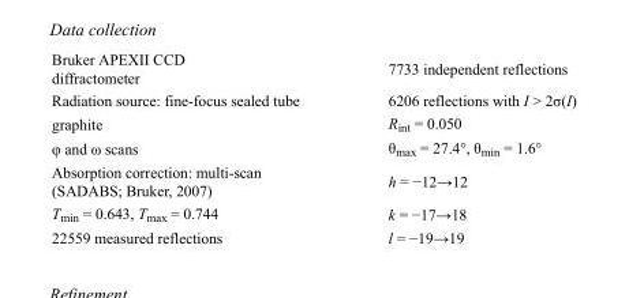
<table><tbody><tr><td>Bruker APEXII CCD diffractometer</td><td>7733 independent reflections</td></tr><tr><td>Radiation source: fine-focus sealed tube</td><td>6206 reflections with I &gt; 2σ(I)</td></tr><tr><td>graphite</td><td>R<sub>int</sub> = 0.050</td></tr><tr><td>φ and ω scans</td><td>θ<sub>max</sub> = 27.4°, θ<sub>min</sub> = 1.6°</td></tr><tr><td>Absorption correction: multi-scan (SADABS; Bruker, 2007)</td><td>h = −12→12</td></tr><tr><td>T<sub>min</sub> = 0.643, T<sub>max</sub> = 0.744</td><td>k = −17→18</td></tr><tr><td>22559 measured reflections</td><td>l = −19→19</td></tr></tbody></table>